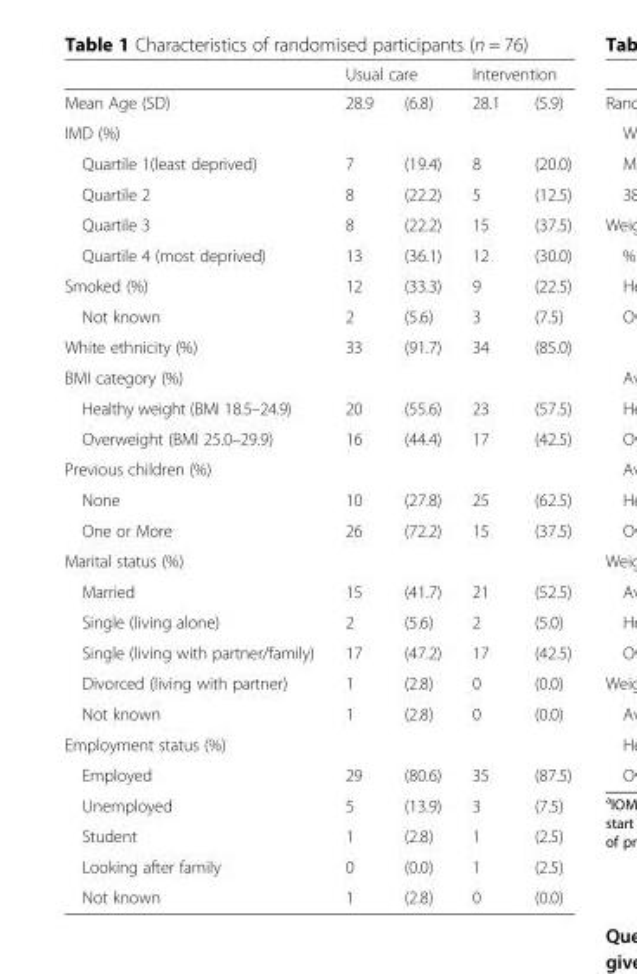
<table><thead><tr><td rowspan="2">Mean Age (SD)</td><td colspan="2">Usual care</td><td colspan="2">Intervention</td></tr><tr><td>28.9</td><td>(6.8)</td><td>28.1</td><td>(5.9)</td></tr></thead><tbody><tr><td colspan="5">IMD (%)</td></tr><tr><td>Quartile 1(least deprived)</td><td>7</td><td>(19.4)</td><td>8</td><td>(20.0)</td></tr><tr><td>Quartile 2</td><td>8</td><td>(22.2)</td><td>5</td><td>(12.5)</td></tr><tr><td>Quartile 3</td><td>8</td><td>(22.2)</td><td>15</td><td>(37.5)</td></tr><tr><td>Quartile 4 (most deprived)</td><td>13</td><td>(36.1)</td><td>12</td><td>(30.0)</td></tr><tr><td>Smoked (%)</td><td>12</td><td>(33.3)</td><td>9</td><td>(22.5)</td></tr><tr><td>Not known</td><td>2</td><td>(5.6)</td><td>3</td><td>(7.5)</td></tr><tr><td>White ethnicity (%)</td><td>33</td><td>(91.7)</td><td>34</td><td>(85.0)</td></tr><tr><td colspan="5">BMI category (%)</td></tr><tr><td>Healthy weight (BMI 18.5–24.9)</td><td>20</td><td>(55.6)</td><td>23</td><td>(57.5)</td></tr><tr><td>Overweight (BMI 25.0–29.9)</td><td>16</td><td>(44.4)</td><td>17</td><td>(42.5)</td></tr><tr><td colspan="5">Previous children (%)</td></tr><tr><td>None</td><td>10</td><td>(27.8)</td><td>25</td><td>(62.5)</td></tr><tr><td>One or More</td><td>26</td><td>(72.2)</td><td>15</td><td>(37.5)</td></tr><tr><td colspan="5">Marital status (%)</td></tr><tr><td>Married</td><td>15</td><td>(41.7)</td><td>21</td><td>(52.5)</td></tr><tr><td>Single (living alone)</td><td>2</td><td>(5.6)</td><td>2</td><td>(5.0)</td></tr><tr><td>Single (living with partner/family)</td><td>17</td><td>(47.2)</td><td>17</td><td>(42.5)</td></tr><tr><td>Divorced (living with partner)</td><td>1</td><td>(2.8)</td><td>0</td><td>(0.0)</td></tr><tr><td>Not known</td><td>1</td><td>(2.8)</td><td>0</td><td>(0.0)</td></tr><tr><td colspan="5">Employment status (%)</td></tr><tr><td>Employed</td><td>29</td><td>(80.6)</td><td>35</td><td>(87.5)</td></tr><tr><td>Unemployed</td><td>5</td><td>(13.9)</td><td>3</td><td>(7.5)</td></tr><tr><td>Student</td><td>1</td><td>(2.8)</td><td>1</td><td>(2.5)</td></tr><tr><td>Looking after family</td><td>0</td><td>(0.0)</td><td>1</td><td>(2.5)</td></tr><tr><td>Not known</td><td>1</td><td>(2.8)</td><td>0</td><td>(0.0)</td></tr></tbody></table>